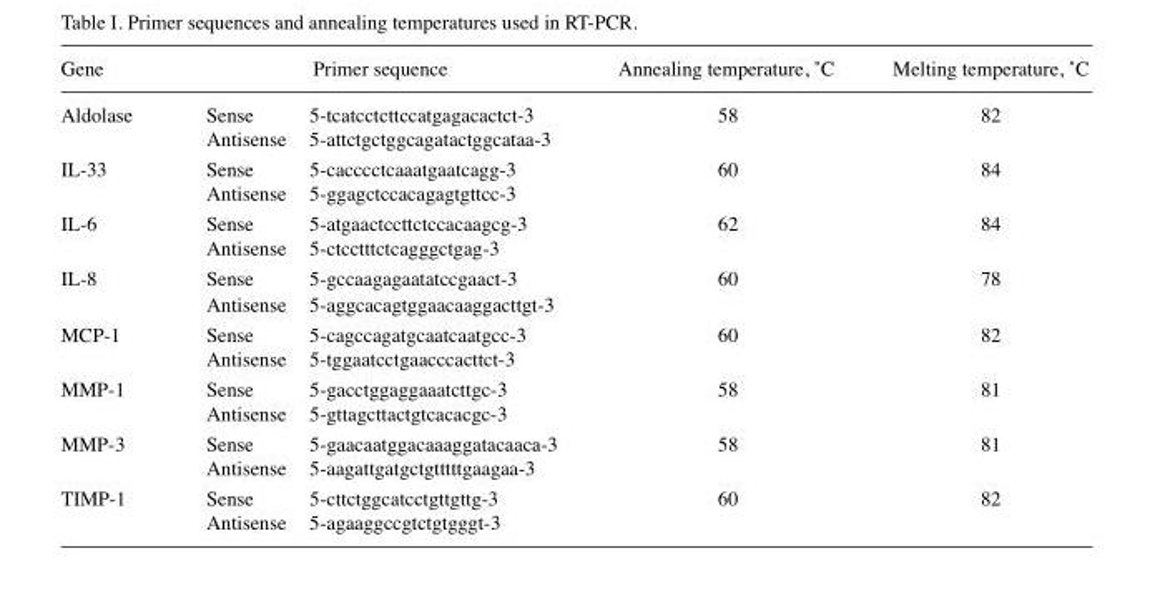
<table><thead><tr><td>Gene</td><td></td><td>Primer sequence</td><td>Annealing temperature, ˚C</td><td>Melting temperature, ˚C</td></tr></thead><tbody><tr><td rowspan="2">Aldolase</td><td>Sense</td><td>5-tcatcctcttccatgagacactct-3</td><td rowspan="2">58</td><td rowspan="2">82</td></tr><tr><td>Antisense</td><td>5-attctgctggcagatactggcataa-3</td></tr><tr><td rowspan="2">IL-33</td><td>Sense</td><td>5-cacccctcaaatgaatcagg-3</td><td rowspan="2">60</td><td rowspan="2">84</td></tr><tr><td>Antisense</td><td>5-ggagctccacagagtgttcc-3</td></tr><tr><td rowspan="2">IL-6</td><td>Sense</td><td>5-atgaactccttctccacaagcg-3</td><td rowspan="2">62</td><td rowspan="2">84</td></tr><tr><td>Antisense</td><td>5-ctcctttctcagggctgag-3</td></tr><tr><td rowspan="2">IL-8</td><td>Sense</td><td>5-gccaagagaatatccgaact-3</td><td rowspan="2">60</td><td rowspan="2">78</td></tr><tr><td>Antisense</td><td>5-aggcacagtggaacaaggacttgt-3</td></tr><tr><td rowspan="2">MCP-1</td><td>Sense</td><td>5-cagccagatgcaatcaatgcc-3</td><td rowspan="2">60</td><td rowspan="2">82</td></tr><tr><td>Antisense</td><td>5-tggaatcctgaacccacttct-3</td></tr><tr><td rowspan="2">MMP-1</td><td>Sense</td><td>5-gacctggaggaaatcttgc-3</td><td rowspan="2">58</td><td rowspan="2">81</td></tr><tr><td>Antisense</td><td>5-gttagcttactgtcacacgc-3</td></tr><tr><td rowspan="2">MMP-3</td><td>Sense</td><td>5-gaacaatggacaaaggatacaaca-3</td><td rowspan="2">58</td><td rowspan="2">81</td></tr><tr><td>Antisense</td><td>5-aagattgatgctgtttttgaagaa-3</td></tr><tr><td rowspan="2">TIMP-1</td><td>Sense</td><td>5-cttctggcatcctgttgttg-3</td><td rowspan="2">60</td><td rowspan="2">82</td></tr><tr><td>Antisense</td><td>5-agaaggccgtctgtgggt-3</td></tr></tbody></table>